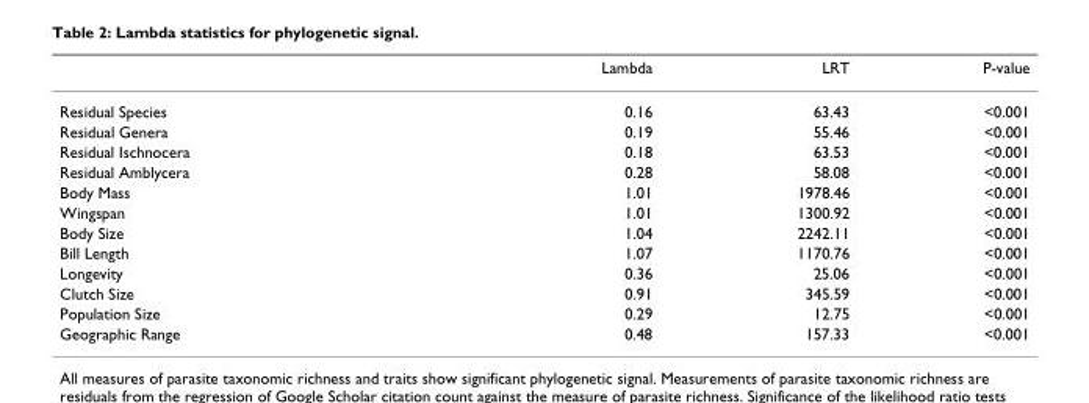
<table><thead><tr><td></td><td>Lambda</td><td>LRT</td><td>P-value</td></tr></thead><tbody><tr><td>Residual Species</td><td>0.16</td><td>63.43</td><td>&lt;0.001</td></tr><tr><td>Residual Genera</td><td>0.19</td><td>55.46</td><td>&lt;0.001</td></tr><tr><td>Residual Ischnocera</td><td>0.18</td><td>63.53</td><td>&lt;0.001</td></tr><tr><td>Residual Amblycera</td><td>0.28</td><td>58.08</td><td>&lt;0.001</td></tr><tr><td>Body Mass</td><td>1.01</td><td>1978.46</td><td>&lt;0.001</td></tr><tr><td>Wingspan</td><td>1.01</td><td>1300.92</td><td>&lt;0.001</td></tr><tr><td>Body Size</td><td>1.04</td><td>2242.11</td><td>&lt;0.001</td></tr><tr><td>Bill Length</td><td>1.07</td><td>1170.76</td><td>&lt;0.001</td></tr><tr><td>Longevity</td><td>0.36</td><td>25.06</td><td>&lt;0.001</td></tr><tr><td>Clutch Size</td><td>0.91</td><td>345.59</td><td>&lt;0.001</td></tr><tr><td>Population Size</td><td>0.29</td><td>12.75</td><td>&lt;0.001</td></tr><tr><td>Geographic Range</td><td>0.48</td><td>157.33</td><td>&lt;0.001</td></tr></tbody></table>